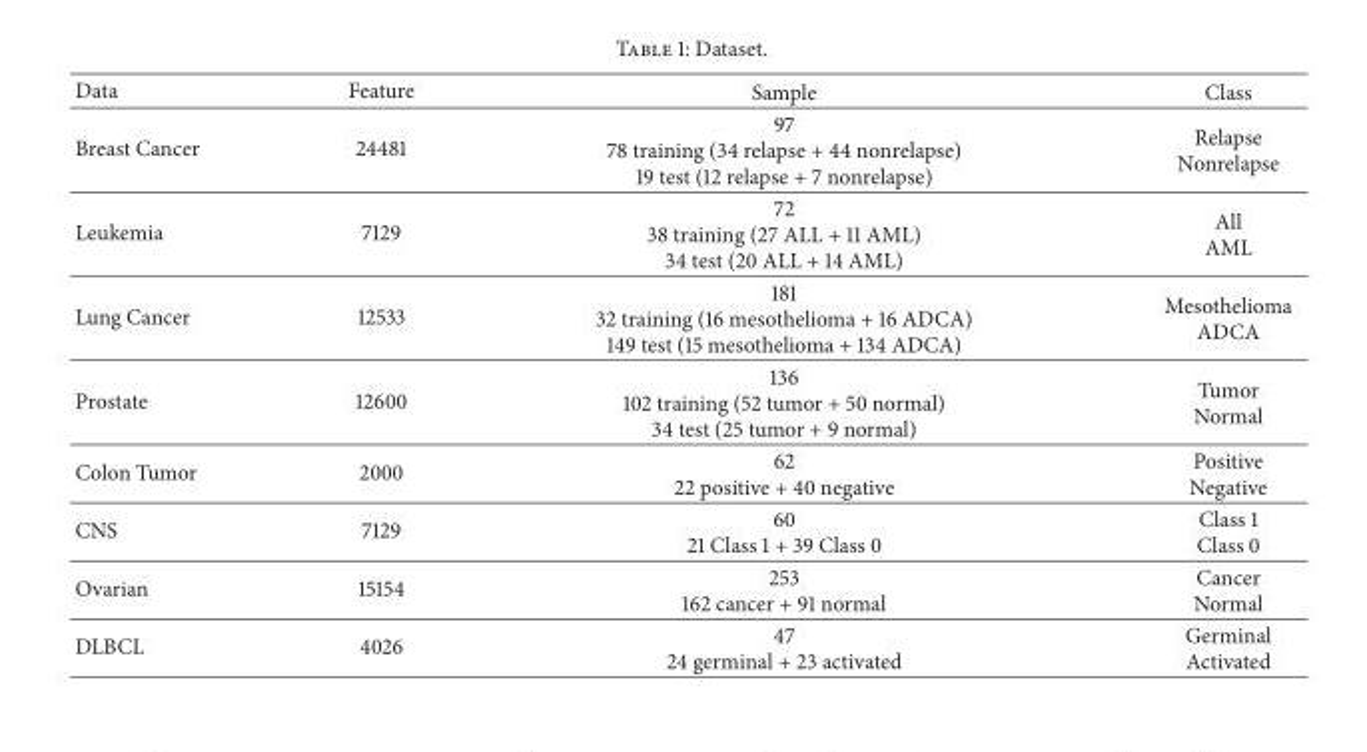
<table><thead><tr><td>Data</td><td>Feature</td><td>Sample</td><td>Class</td></tr></thead><tbody><tr><td>Breast Cancer</td><td>24481</td><td>97 78 training (34 relapse + 44 nonrelapse) 19 test (12 relapse + 7 nonrelapse)</td><td>Relapse Nonrelapse</td></tr><tr><td>Leukemia</td><td>7129</td><td>72 38 training (27 ALL + 11 AML) 34 test (20 ALL + 14 AML)</td><td>All AML</td></tr><tr><td>Lung Cancer</td><td>12533</td><td>181 32 training (16 mesothelioma + 16 ADCA) 149 test (15 mesothelioma + 134 ADCA)</td><td>Mesothelioma ADCA</td></tr><tr><td>Prostate</td><td>12600</td><td>136 102 training (52 tumor + 50 normal) 34 test (25 tumor + 9 normal)</td><td>Tumor Normal</td></tr><tr><td>Colon Tumor</td><td>2000</td><td>62 22 positive + 40 negative</td><td>Positive Negative</td></tr><tr><td>CNS</td><td>7129</td><td>60 21 Class 1 + 39 Class 0</td><td>Class 1 Class 0</td></tr><tr><td>Ovarian</td><td>15154</td><td>253 162 cancer + 91 normal</td><td>Cancer Normal</td></tr><tr><td>DLBCL</td><td>4026</td><td>47 24 germinal + 23 activated</td><td>Germinal Activated</td></tr></tbody></table>